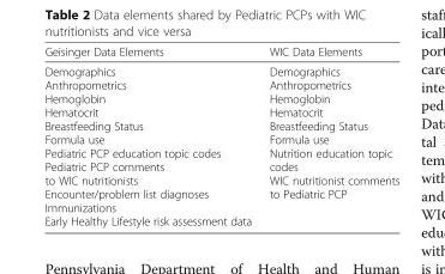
<table><thead><tr><td>Geisinger Data Elements</td><td>WIC Data Elements</td></tr></thead><tbody><tr><td>Demographics Anthropometrics Hemoglobin Hematocrit Breastfeeding Status Formula use Pediatric PCP education topic codes Pediatric PCP comments to WIC nutritionists Encounter/problem list diagnoses Immunizations Early Healthy Lifestyle risk assessment data</td><td>Demographics Anthropometrics Hemoglobin Hematocrit Breastfeeding Status Formula use Nutrition education topic codes WIC nutritionist comments to Pediatric PCP</td></tr></tbody></table>